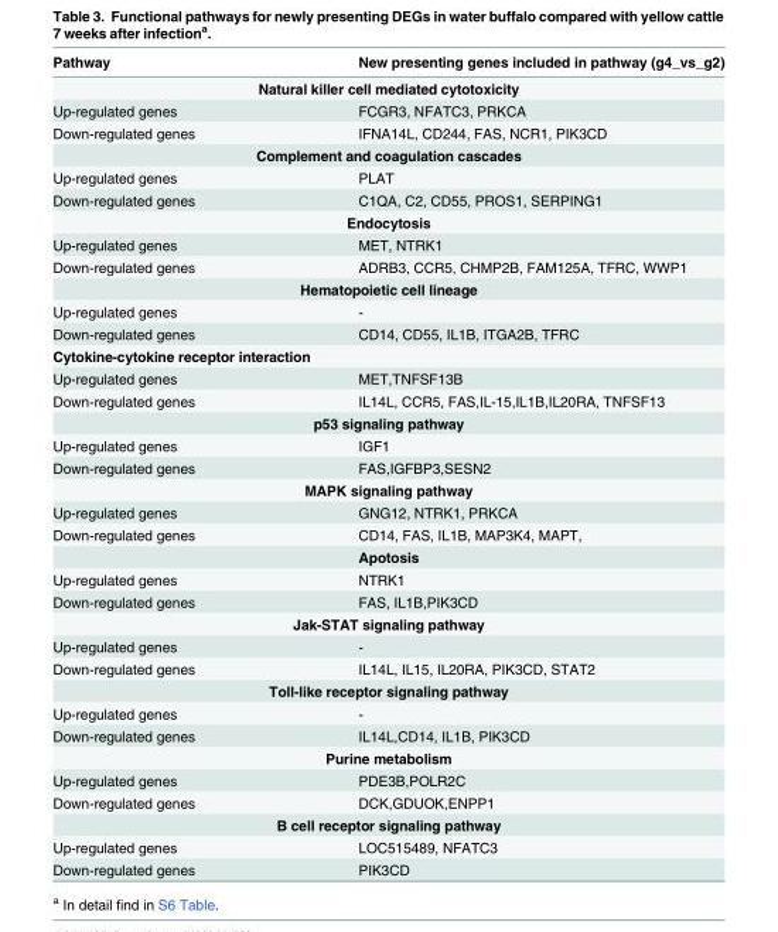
<table><thead><tr><td>Pathway</td><td>New presenting genes included in pathway (g4_vs_g2)</td></tr></thead><tbody><tr><td colspan="2">Natural killer cell mediated cytotoxicity</td></tr><tr><td>Up-regulated genes</td><td>FCGR3, NFATC3, PRKCA</td></tr><tr><td>Down-regulated genes</td><td>IFNA14L, CD244, FAS, NCR1, PIK3CD</td></tr><tr><td colspan="2">Complement and coagulation cascades</td></tr><tr><td>Up-regulated genes</td><td>PLAT</td></tr><tr><td>Down-regulated genes</td><td>C1QA, C2, CD55, PROS1, SERPING1</td></tr><tr><td colspan="2">Endocytosis</td></tr><tr><td>Up-regulated genes</td><td>MET, NTRK1</td></tr><tr><td>Down-regulated genes</td><td>ADRB3, CCR5, CHMP2B, FAM125A, TFRC, WWP1</td></tr><tr><td colspan="2">Hematopoietic cell lineage</td></tr><tr><td>Up-regulated genes</td><td>-</td></tr><tr><td>Down-regulated genes</td><td>CD14, CD55, IL1B, ITGA2B, TFRC</td></tr><tr><td colspan="2">Cytokine-cytokine receptor interaction</td></tr><tr><td>Up-regulated genes</td><td>MET,TNFSF13B</td></tr><tr><td>Down-regulated genes</td><td>IL14L, CCR5, FAS,IL-15,IL1B,IL20RA, TNFSF13</td></tr><tr><td colspan="2">p53 signaling pathway</td></tr><tr><td>Up-regulated genes</td><td>IGF1</td></tr><tr><td>Down-regulated genes</td><td>FAS,IGFBP3,SESN2</td></tr><tr><td colspan="2">MAPK signaling pathway</td></tr><tr><td>Up-regulated genes</td><td>GNG12, NTRK1, PRKCA</td></tr><tr><td>Down-regulated genes</td><td>CD14, FAS, IL1B, MAP3K4, MAPT,</td></tr><tr><td colspan="2">Apotosis</td></tr><tr><td>Up-regulated genes</td><td>NTRK1</td></tr><tr><td>Down-regulated genes</td><td>FAS, IL1B,PIK3CD</td></tr><tr><td colspan="2">Jak-STAT signaling pathway</td></tr><tr><td>Up-regulated genes</td><td>-</td></tr><tr><td>Down-regulated genes</td><td>IL14L, IL15, IL20RA, PIK3CD, STAT2</td></tr><tr><td colspan="2">Toll-like receptor signaling pathway</td></tr><tr><td>Up-regulated genes</td><td>-</td></tr><tr><td>Down-regulated genes</td><td>IL14L,CD14, IL1B, PIK3CD</td></tr><tr><td colspan="2">Purine metabolism</td></tr><tr><td>Up-regulated genes</td><td>PDE3B,POLR2C</td></tr><tr><td>Down-regulated genes</td><td>DCK,GDUOK,ENPP1</td></tr><tr><td colspan="2">B cell receptor signaling pathway</td></tr><tr><td>Up-regulated genes</td><td>LOC515489, NFATC3</td></tr><tr><td>Down-regulated genes</td><td>PIK3CD</td></tr></tbody></table>